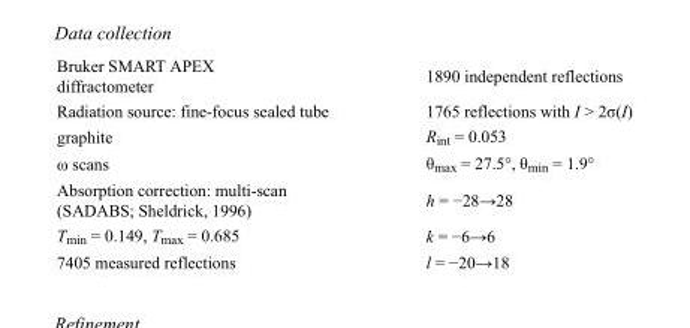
<table><tbody><tr><td>Bruker SMART APEX diffractometer</td><td>1890 independent reflections</td></tr><tr><td>Radiation source: fine-focus sealed tube</td><td>1765 reflections with I &gt; 2σ(I)</td></tr><tr><td>graphite</td><td>R<sub>int</sub> = 0.053</td></tr><tr><td>ω scans</td><td>θ<sub>max</sub> = 27.5°, θ<sub>min</sub> = 1.9°</td></tr><tr><td>Absorption correction: multi-scan (SADABS; Sheldrick, 1996)</td><td>h = −28→28</td></tr><tr><td>T<sub>min</sub> = 0.149, T<sub>max</sub> = 0.685</td><td>k = −6→6</td></tr><tr><td>7405 measured reflections</td><td>l = −20→18</td></tr></tbody></table>